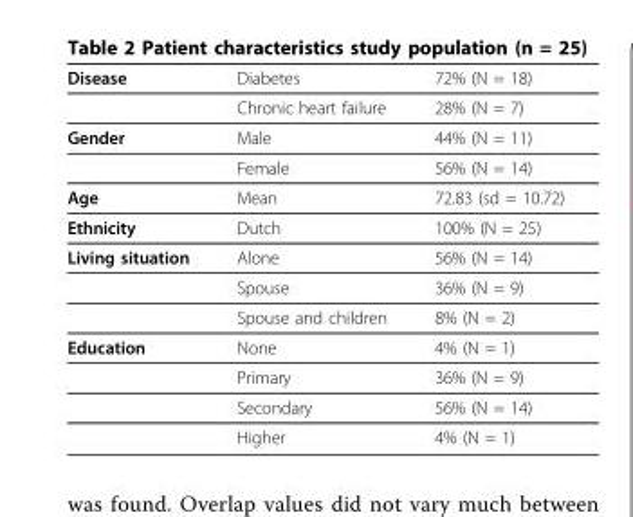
<table><thead><tr><td>Disease</td><td>Diabetes</td><td>72% (N = 18)</td></tr></thead><tbody><tr><td></td><td>Chronic heart failure</td><td>28% (N = 7)</td></tr><tr><td rowspan="2">Gender</td><td>Male</td><td>44% (N = 11)</td></tr><tr><td>Female</td><td>56% (N = 14)</td></tr><tr><td>Age</td><td>Mean</td><td>72.83 (sd = 10.72)</td></tr><tr><td>Ethnicity</td><td>Dutch</td><td>100% (N = 25)</td></tr><tr><td rowspan="3">Living situation</td><td>Alone</td><td>56% (N = 14)</td></tr><tr><td>Spouse</td><td>36% (N = 9)</td></tr><tr><td>Spouse and children</td><td>8% (N = 2)</td></tr><tr><td rowspan="4">Education</td><td>None</td><td>4% (N = 1)</td></tr><tr><td>Primary</td><td>36% (N = 9)</td></tr><tr><td>Secondary</td><td>56% (N = 14)</td></tr><tr><td>Higher</td><td>4% (N = 1)</td></tr></tbody></table>